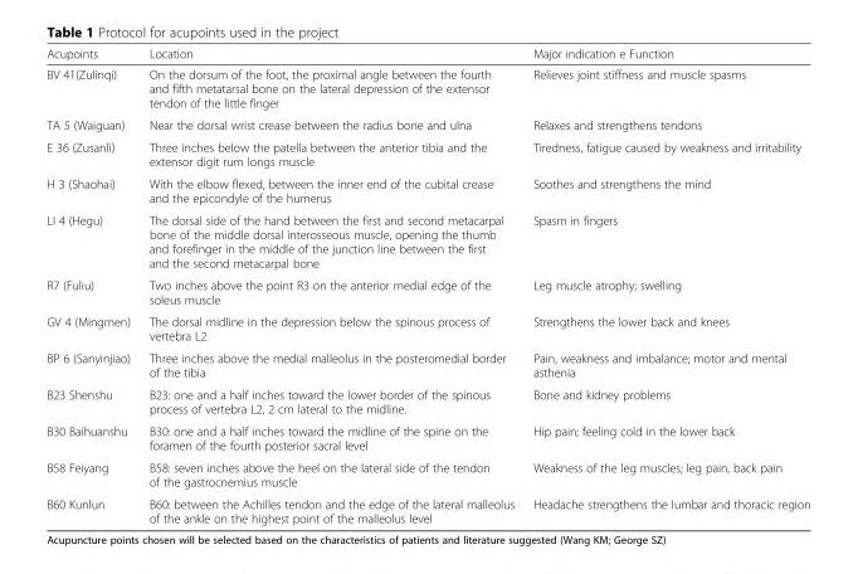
<table><thead><tr><td>Acupoints</td><td>Location</td><td>Major indication e Function</td></tr></thead><tbody><tr><td>BV 41(Zulinqi)</td><td>On the dorsum of the foot, the proximal angle between the fourth and fifth metatarsal bone on the lateral depression of the extensor tendon of the little finger</td><td>Relieves joint stiffness and muscle spasms</td></tr><tr><td>TA 5 (Waiguan)</td><td>Near the dorsal wrist crease between the radius bone and ulna</td><td>Relaxes and strengthens tendons</td></tr><tr><td>E 36 (Zusanli)</td><td>Three inches below the patella between the anterior tibia and the extensor digit rum longs muscle</td><td>Tiredness, fatigue caused by weakness and irritability</td></tr><tr><td>H 3 (Shaohai)</td><td>With the elbow flexed, between the inner end of the cubital crease and the epicondyle of the humerus</td><td>Soothes and strengthens the mind</td></tr><tr><td>LI 4 (Hegu)</td><td>The dorsal side of the hand between the first and second metacarpal bone of the middle dorsal interosseous muscle, opening the thumb and forefinger in the middle of the junction line between the first and the second metacarpal bone</td><td>Spasm in fingers</td></tr><tr><td>R7 (Fuliu)</td><td>Two inches above the point R3 on the anterior medial edge of the soleus muscle</td><td>Leg muscle atrophy; swelling</td></tr><tr><td>GV 4 (Mingmen)</td><td>The dorsal midline in the depression below the spinous process of vertebra L2</td><td>Strengthens the lower back and knees</td></tr><tr><td>BP 6 (Sanyinjiao)</td><td>Three inches above the medial malleolus in the posteromedial border of the tibia</td><td>Pain, weakness and imbalance; motor and mental asthenia</td></tr><tr><td>B23 Shenshu</td><td>B23: one and a half inches toward the lower border of the spinous process of vertebra L2, 2 cm lateral to the midline.</td><td>Bone and kidney problems</td></tr><tr><td>B30 Baihuanshu</td><td>B30: one and a half inches toward the midline of the spine on the foramen of the fourth posterior sacral level</td><td>Hip pain; feeling cold in the lower back</td></tr><tr><td>B58 Feiyang</td><td>B58: seven inches above the heel on the lateral side of the tendon of the gastrocnemius muscle</td><td>Weakness of the leg muscles; leg pain, back pain</td></tr><tr><td>B60 Kunlun</td><td>B60: between the Achilles tendon and the edge of the lateral malleolus of the ankle on the highest point of the malleolus level</td><td>Headache strengthens the lumbar and thoracic region</td></tr></tbody></table>